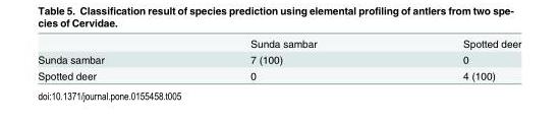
<table><thead><tr><td></td><td>Sunda sambar</td><td>Spotted deer</td></tr></thead><tbody><tr><td>Sunda sambar</td><td>7 (100)</td><td>0</td></tr><tr><td>Spotted deer</td><td>0</td><td>4 (100)</td></tr></tbody></table>